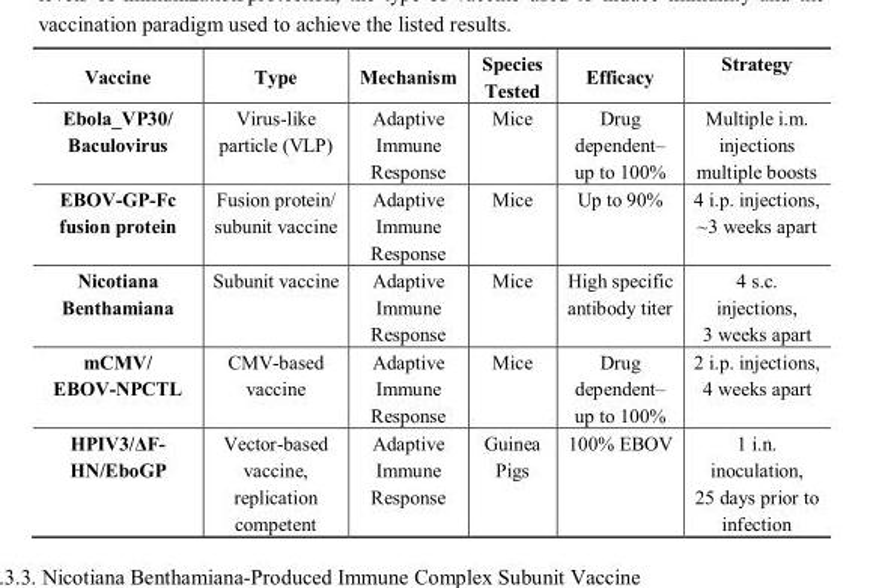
<table><thead><tr><td>Vaccine</td><td>Type</td><td>Mechanism</td><td>Species Tested</td><td>Efficacy</td><td>Strategy</td></tr></thead><tbody><tr><td>Ebola_VP30/ Baculovirus</td><td>Virus-like particle (VLP)</td><td>Adaptive Immune Response</td><td>Mice</td><td>Drug dependent– up to 100%</td><td>Multiple i.m. injections multiple boosts</td></tr><tr><td>EBOV-GP-Fc fusion protein</td><td>Fusion protein/ subunit vaccine</td><td>Adaptive Immune Response</td><td>Mice</td><td>Up to 90%</td><td>4 i.p. injections, ~3 weeks apart</td></tr><tr><td>Nicotiana Benthamiana</td><td>Subunit vaccine</td><td>Adaptive Immune Response</td><td>Mice</td><td>High specific antibody titer</td><td>4 s.c. injections, 3 weeks apart</td></tr><tr><td>mCMV/ EBOV-NPCTL</td><td>CMV-based vaccine</td><td>Adaptive Immune Response</td><td>Mice</td><td>Drug dependent– up to 100%</td><td>2 i.p. injections, 4 weeks apart</td></tr><tr><td>HPIV3/ΔF- HN/EboGP</td><td>Vector-based vaccine, replication competent</td><td>Adaptive Immune Response</td><td>Guinea Pigs</td><td>100% EBOV</td><td>1 i.n. inoculation, 25 days prior to infection</td></tr></tbody></table>